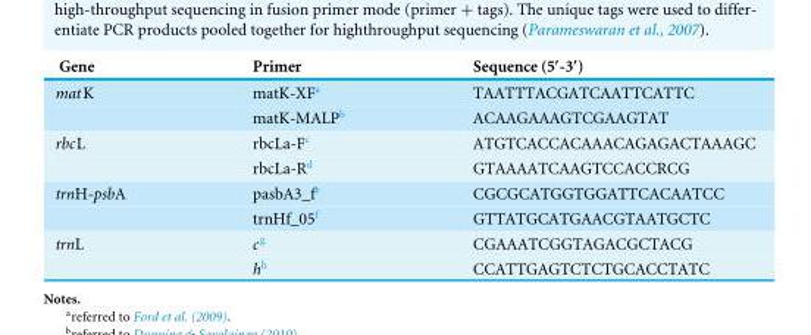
<table><thead><tr><td>Gene</td><td>Primer</td><td>Sequence (5′-3′)</td></tr></thead><tbody><tr><td rowspan="2">matK</td><td>matK-XF<sup>a</sup></td><td>TAATTTACGATCAATTCATTC</td></tr><tr><td>matK-MALP<sup>b</sup></td><td>ACAAGAAAGTCGAAGTAT</td></tr><tr><td rowspan="2">rbcL</td><td>rbcLa-F<sup>c</sup></td><td>ATGTCACCACAAACAGAGACTAAAGC</td></tr><tr><td>rbcLa-R<sup>d</sup></td><td>GTAAAATCAAGTCCACCRCG</td></tr><tr><td rowspan="2">trnH-psbA</td><td>pasbA3_f<sup>e</sup></td><td>CGCGCATGGTGGATTCACAATCC</td></tr><tr><td>trnHf_05<sup>f</sup></td><td>GTTATGCATGAACGTAATGCTC</td></tr><tr><td rowspan="2">trnL</td><td>c<sup>g</sup></td><td>CGAAATCGGTAGACGCTACG</td></tr><tr><td>h<sup>h</sup></td><td>CCATTGAGTCTCTGCACCTATC</td></tr></tbody></table>